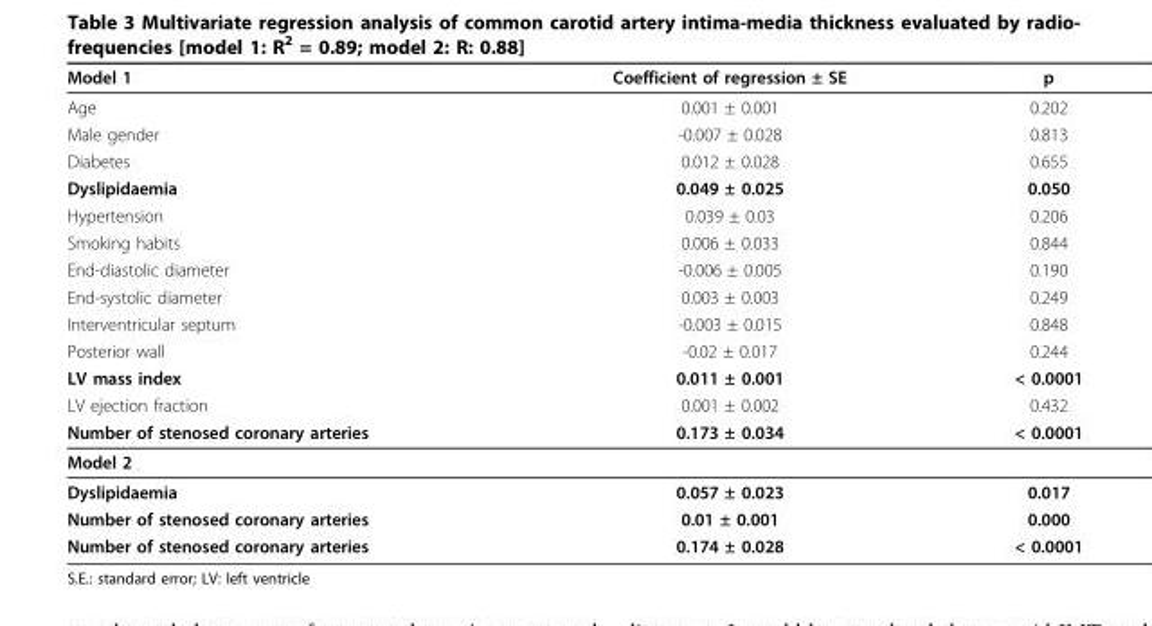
<table><thead><tr><td>Model 1</td><td>Coefficient of regression ± SE</td><td>p</td></tr></thead><tbody><tr><td>Age</td><td>0.001 ± 0.001</td><td>0.202</td></tr><tr><td>Male gender</td><td>-0.007 ± 0.028</td><td>0.813</td></tr><tr><td>Diabetes</td><td>0.012 ± 0.028</td><td>0.655</td></tr><tr><td>Dyslipidaemia</td><td>0.049 ± 0.025</td><td>0.050</td></tr><tr><td>Hypertension</td><td>0.039 ± 0.03</td><td>0.206</td></tr><tr><td>Smoking habits</td><td>0.006 ± 0.033</td><td>0.844</td></tr><tr><td>End-diastolic diameter</td><td>-0.006 ± 0.005</td><td>0.190</td></tr><tr><td>End-systolic diameter</td><td>0.003 ± 0.003</td><td>0.249</td></tr><tr><td>Interventricular septum</td><td>-0.003 ± 0.015</td><td>0.848</td></tr><tr><td>Posterior wall</td><td>-0.02 ± 0.017</td><td>0.244</td></tr><tr><td>LV mass index</td><td>0.011 ± 0.001</td><td>&lt; 0.0001</td></tr><tr><td>LV ejection fraction</td><td>0.001 ± 0.002</td><td>0.432</td></tr><tr><td>Number of stenosed coronary arteries</td><td>0.173 ± 0.034</td><td>&lt; 0.0001</td></tr><tr><td colspan="3">Model 2</td></tr><tr><td>Dyslipidaemia</td><td>0.057 ± 0.023</td><td>0.017</td></tr><tr><td>Number of stenosed coronary arteries</td><td>0.01 ± 0.001</td><td>0.000</td></tr><tr><td>Number of stenosed coronary arteries</td><td>0.174 ± 0.028</td><td>&lt; 0.0001</td></tr></tbody></table>